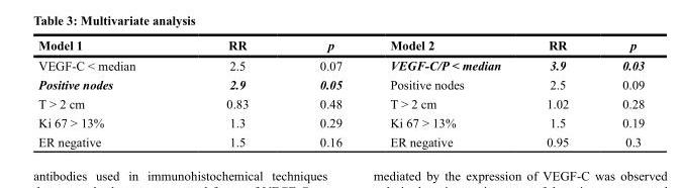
<table><thead><tr><td>Model 1</td><td>RR</td><td>p</td><td>Model 2</td><td>RR</td><td>p</td></tr></thead><tbody><tr><td>VEGF-C &lt; median</td><td>2.5</td><td>0.07</td><td>VEGF-C/P &lt; median</td><td>3.9</td><td>0.03</td></tr><tr><td>Positive nodes</td><td>2.9</td><td>0.05</td><td>Positive nodes</td><td>2.5</td><td>0.09</td></tr><tr><td>T &gt; 2 cm</td><td>0.83</td><td>0.48</td><td>T &gt; 2 cm</td><td>1.02</td><td>0.28</td></tr><tr><td>Ki 67 &gt; 13%</td><td>1.3</td><td>0.29</td><td>Ki 67 &gt; 13%</td><td>1.5</td><td>0.19</td></tr><tr><td>ER negative</td><td>1.5</td><td>0.16</td><td>ER negative</td><td>0.95</td><td>0.3</td></tr></tbody></table>